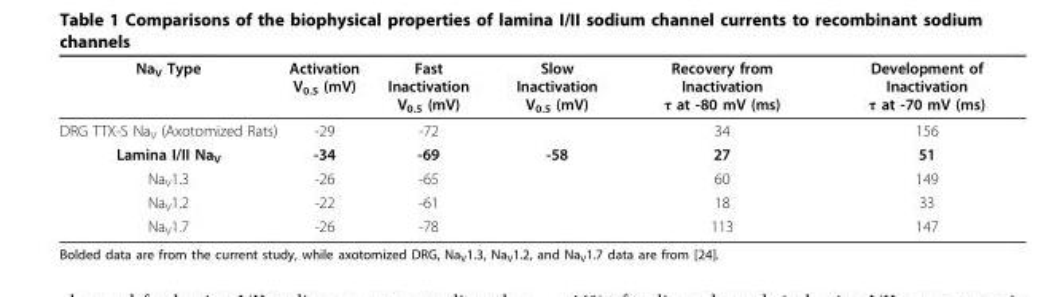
<table><thead><tr><td>Na<sub>V</sub> Type</td><td>Activation V<sub>0.5</sub> (mV)</td><td>Fast Inactivation V<sub>0.5</sub> (mV)</td><td>Slow Inactivation V<sub>0.5</sub> (mV)</td><td>Recovery from Inactivation τ at -80 mV (ms)</td><td>Development of Inactivation τ at -70 mV (ms)</td></tr></thead><tbody><tr><td>DRG TTX-S Na<sub>V</sub> (Axotomized Rats)</td><td>-29</td><td>-72</td><td></td><td>34</td><td>156</td></tr><tr><td>Lamina I/II Na<sub>V</sub></td><td>-34</td><td>-69</td><td>-58</td><td>27</td><td>51</td></tr><tr><td>Na<sub>V</sub>1.3</td><td>-26</td><td>-65</td><td></td><td>60</td><td>149</td></tr><tr><td>Na<sub>V</sub>1.2</td><td>-22</td><td>-61</td><td></td><td>18</td><td>33</td></tr><tr><td>Na<sub>V</sub>1.7</td><td>-26</td><td>-78</td><td></td><td>113</td><td>147</td></tr></tbody></table>